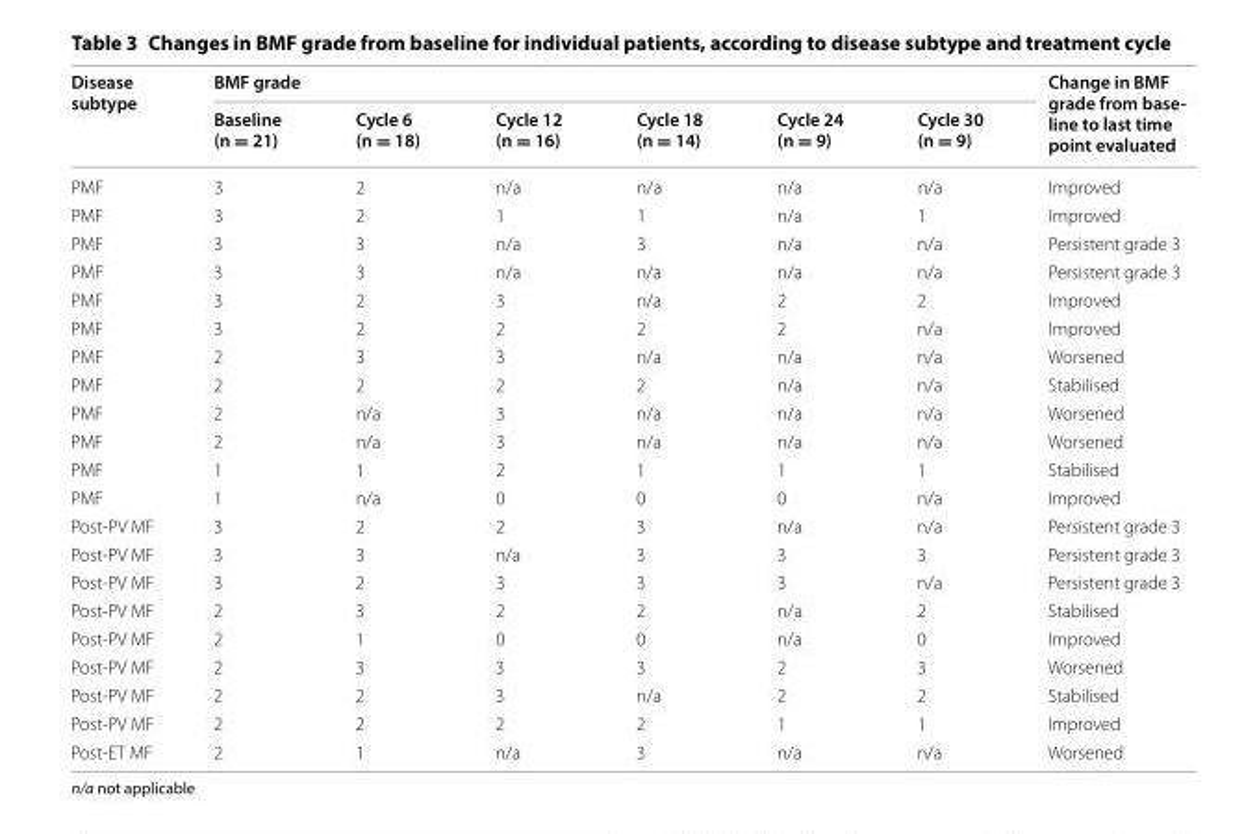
<table><thead><tr><td rowspan="2">Disease subtype</td><td colspan="6">BMF grade</td><td rowspan="2">Change in BMF grade from base- line to last time point evaluated</td></tr><tr><td>Baseline (n = 21)</td><td>Cycle 6 (n = 18)</td><td>Cycle 12 (n = 16)</td><td>Cycle 18 (n = 14)</td><td>Cycle 24 (n = 9)</td><td>Cycle 30 (n = 9)</td></tr></thead><tbody><tr><td>PMF</td><td>3</td><td>2</td><td>n/a</td><td>n/a</td><td>n/a</td><td>n/a</td><td>Improved</td></tr><tr><td>PMF</td><td>3</td><td>2</td><td>1</td><td>1</td><td>n/a</td><td>1</td><td>Improved</td></tr><tr><td>PMF</td><td>3</td><td>3</td><td>n/a</td><td>3</td><td>n/a</td><td>n/a</td><td>Persistent grade 3</td></tr><tr><td>PMF</td><td>3</td><td>3</td><td>n/a</td><td>n/a</td><td>n/a</td><td>n/a</td><td>Persistent grade 3</td></tr><tr><td>PMF</td><td>3</td><td>2</td><td>3</td><td>n/a</td><td>2</td><td>2</td><td>Improved</td></tr><tr><td>PMF</td><td>3</td><td>2</td><td>2</td><td>2</td><td>2</td><td>n/a</td><td>Improved</td></tr><tr><td>PMF</td><td>2</td><td>3</td><td>3</td><td>n/a</td><td>n/a</td><td>n/a</td><td>Worsened</td></tr><tr><td>PMF</td><td>2</td><td>2</td><td>2</td><td>2</td><td>n/a</td><td>n/a</td><td>Stabilised</td></tr><tr><td>PMF</td><td>2</td><td>n/a</td><td>3</td><td>n/a</td><td>n/a</td><td>n/a</td><td>Worsened</td></tr><tr><td>PMF</td><td>2</td><td>n/a</td><td>3</td><td>n/a</td><td>n/a</td><td>n/a</td><td>Worsened</td></tr><tr><td>PMF</td><td>1</td><td>1</td><td>2</td><td>1</td><td>1</td><td>1</td><td>Stabilised</td></tr><tr><td>PMF</td><td>1</td><td>n/a</td><td>0</td><td>0</td><td>0</td><td>n/a</td><td>Improved</td></tr><tr><td>Post-PV MF</td><td>3</td><td>2</td><td>2</td><td>3</td><td>n/a</td><td>n/a</td><td>Persistent grade 3</td></tr><tr><td>Post-PV MF</td><td>3</td><td>3</td><td>n/a</td><td>3</td><td>3</td><td>3</td><td>Persistent grade 3</td></tr><tr><td>Post-PV MF</td><td>3</td><td>2</td><td>3</td><td>3</td><td>3</td><td>n/a</td><td>Persistent grade 3</td></tr><tr><td>Post-PV MF</td><td>2</td><td>3</td><td>2</td><td>2</td><td>n/a</td><td>2</td><td>Stabilised</td></tr><tr><td>Post-PV MF</td><td>2</td><td>1</td><td>0</td><td>0</td><td>n/a</td><td>0</td><td>Improved</td></tr><tr><td>Post-PV MF</td><td>2</td><td>3</td><td>3</td><td>3</td><td>2</td><td>3</td><td>Worsened</td></tr><tr><td>Post-PV MF</td><td>2</td><td>2</td><td>3</td><td>n/a</td><td>2</td><td>2</td><td>Stabilised</td></tr><tr><td>Post-PV MF</td><td>2</td><td>2</td><td>2</td><td>2</td><td>1</td><td>1</td><td>Improved</td></tr><tr><td>Post-ET MF</td><td>2</td><td>1</td><td>n/a</td><td>3</td><td>n/a</td><td>n/a</td><td>Worsened</td></tr></tbody></table>